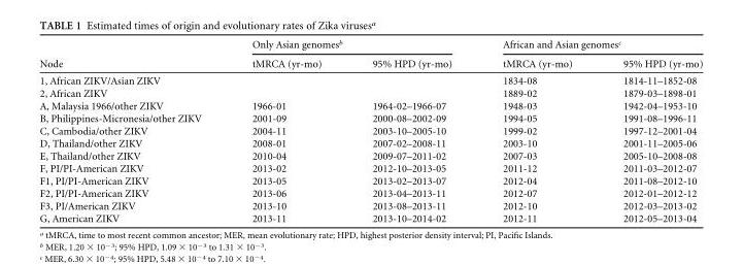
<table><thead><tr><td rowspan="2">Node</td><td colspan="2">Only Asian genomes<sup>b</sup></td><td colspan="2">African and Asian genomes<sup>c</sup></td></tr><tr><td>tMRCA (yr-mo)</td><td>95% HPD (yr-mo)</td><td>tMRCA (yr-mo)</td><td>95% HPD (yr-mo)</td></tr></thead><tbody><tr><td>1, African ZIKV/Asian ZIKV</td><td></td><td></td><td>1834-08</td><td>1814-11–1852-08</td></tr><tr><td>2, African ZIKV</td><td></td><td></td><td>1889-02</td><td>1879-03–1898-01</td></tr><tr><td>A, Malaysia 1966/other ZIKV</td><td>1966-01</td><td>1964-02–1966-07</td><td>1948-03</td><td>1942-04–1953-10</td></tr><tr><td>B, Philippines-Micronesia/other ZIKV</td><td>2001-09</td><td>2000-08–2002-09</td><td>1994-05</td><td>1991-08–1996-11</td></tr><tr><td>C, Cambodia/other ZIKV</td><td>2004-11</td><td>2003-10–2005-10</td><td>1999-02</td><td>1997-12–2001-04</td></tr><tr><td>D, Thailand/other ZIKV</td><td>2008-01</td><td>2007-02–2008-11</td><td>2003-10</td><td>2001-11–2005-06</td></tr><tr><td>E, Thailand/other ZIKV</td><td>2010-04</td><td>2009-07–2011-02</td><td>2007-03</td><td>2005-10–2008-08</td></tr><tr><td>F, PI/PI-American ZIKV</td><td>2013-02</td><td>2012-10–2013-05</td><td>2011-12</td><td>2011-03–2012-07</td></tr><tr><td>F1, PI/PI-American ZIKV</td><td>2013-05</td><td>2013-02–2013-07</td><td>2012-04</td><td>2011-08–2012-10</td></tr><tr><td>F2, PI/PI-American ZIKV</td><td>2013-06</td><td>2013-04–2013-11</td><td>2012-07</td><td>2012-01–2012-12</td></tr><tr><td>F3, PI/American ZIKV</td><td>2013-10</td><td>2013-08–2013-11</td><td>2012-10</td><td>2012-03–2013-02</td></tr><tr><td>G, American ZIKV</td><td>2013-11</td><td>2013-10–2014-02</td><td>2012-11</td><td>2012-05–2013-04</td></tr></tbody></table>